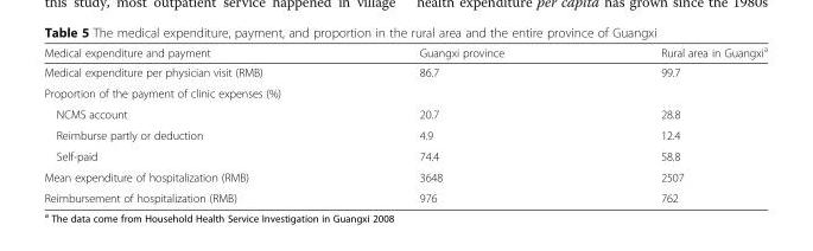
<table><thead><tr><td>Medical expenditure and payment</td><td>Guangxi province</td><td>Rural area in Guangxi<sup>a</sup></td></tr></thead><tbody><tr><td>Medical expenditure per physician visit (RMB)</td><td>86.7</td><td>99.7</td></tr><tr><td colspan="3">Proportion of the payment of clinic expenses (%)</td></tr><tr><td>NCMS account</td><td>20.7</td><td>28.8</td></tr><tr><td>Reimburse partly or deduction</td><td>4.9</td><td>12.4</td></tr><tr><td>Self-paid</td><td>74.4</td><td>58.8</td></tr><tr><td>Mean expenditure of hospitalization (RMB)</td><td>3648</td><td>2507</td></tr><tr><td>Reimbursement of hospitalization (RMB)</td><td>976</td><td>762</td></tr></tbody></table>